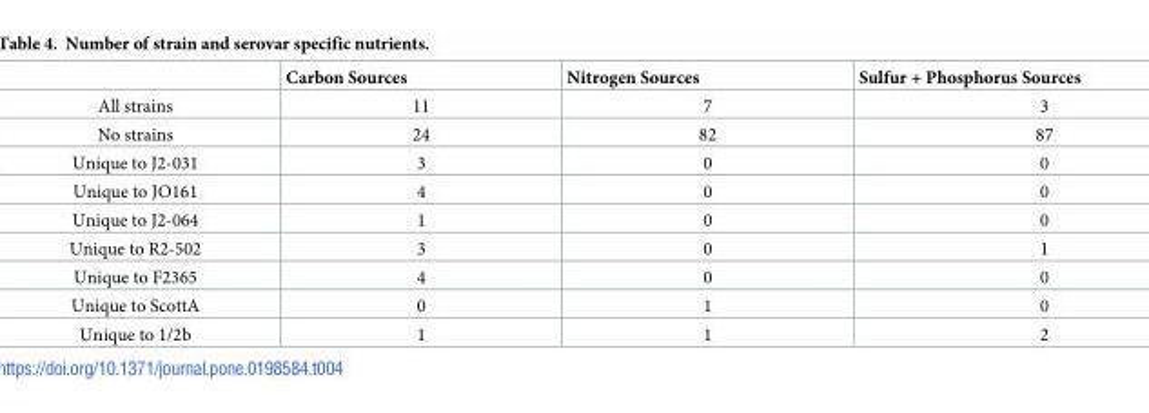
<table><thead><tr><td></td><td>Carbon Sources</td><td>Nitrogen Sources</td><td>Sulfur + Phosphorus Sources</td></tr></thead><tbody><tr><td>All strains</td><td>11</td><td>7</td><td>3</td></tr><tr><td>No strains</td><td>24</td><td>82</td><td>87</td></tr><tr><td>Unique to J2-031</td><td>3</td><td>0</td><td>0</td></tr><tr><td>Unique to JO161</td><td>4</td><td>0</td><td>0</td></tr><tr><td>Unique to J2-064</td><td>1</td><td>0</td><td>0</td></tr><tr><td>Unique to R2-502</td><td>3</td><td>0</td><td>1</td></tr><tr><td>Unique to F2365</td><td>4</td><td>0</td><td>0</td></tr><tr><td>Unique to ScottA</td><td>0</td><td>1</td><td>0</td></tr><tr><td>Unique to 1/2b</td><td>1</td><td>1</td><td>2</td></tr></tbody></table>